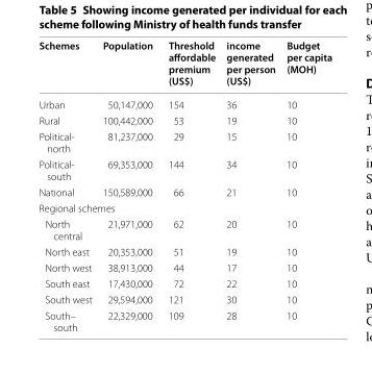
<table><thead><tr><td>Schemes</td><td>Population</td><td>Threshold affordable premium (US$)</td><td>income generated per person (US$)</td><td>Budget per capita (MOH)</td></tr></thead><tbody><tr><td>Urban</td><td>50,147,000</td><td>154</td><td>36</td><td>10</td></tr><tr><td>Rural</td><td>100,442,000</td><td>53</td><td>19</td><td>10</td></tr><tr><td>Political- north</td><td>81,237,000</td><td>29</td><td>15</td><td>10</td></tr><tr><td>Political- south</td><td>69,353,000</td><td>144</td><td>34</td><td>10</td></tr><tr><td>National</td><td>150,589,000</td><td>66</td><td>21</td><td>10</td></tr><tr><td colspan="5">Regional schemes</td></tr><tr><td>North central</td><td>21,971,000</td><td>62</td><td>20</td><td>10</td></tr><tr><td>North east</td><td>20,353,000</td><td>51</td><td>19</td><td>10</td></tr><tr><td>North west</td><td>38,913,000</td><td>44</td><td>17</td><td>10</td></tr><tr><td>South east</td><td>17,430,000</td><td>72</td><td>22</td><td>10</td></tr><tr><td>South west</td><td>29,594,000</td><td>121</td><td>30</td><td>10</td></tr><tr><td>South– south</td><td>22,329,000</td><td>109</td><td>28</td><td>10</td></tr></tbody></table>